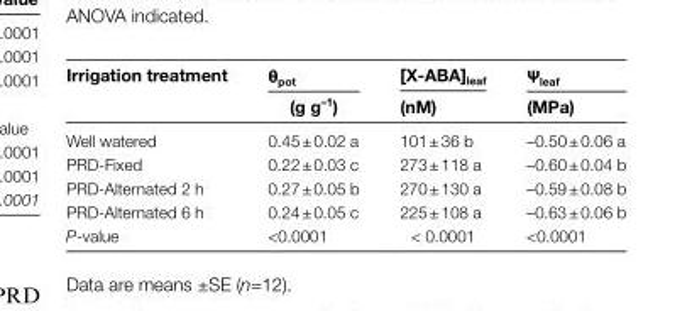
<table><thead><tr><td rowspan="2">Irrigation treatment</td><td rowspan="2">θ<sub>pot</sub> (g g<sup>–1</sup>)</td><td rowspan="2">[X-ABA]<sub>leaf</sub> (nM)</td><td rowspan="2">Ψ<sub>leaf</sub> (MPa)</td></tr><tr></tr></thead><tbody><tr><td>Well watered</td><td>0.45 ± 0.02 a</td><td>101 ± 36 b</td><td>–0.50 ± 0.06 a</td></tr><tr><td>PRD-Fixed</td><td>0.22 ± 0.03 c</td><td>273 ± 118 a</td><td>–0.60 ± 0.04 b</td></tr><tr><td>PRD-Alternated 2 h</td><td>0.27 ± 0.05 b</td><td>270 ± 130 a</td><td>–0.59 ± 0.08 b</td></tr><tr><td>PRD-Alternated 6 h</td><td>0.24 ± 0.05 c</td><td>225 ± 108 a</td><td>–0.63 ± 0.06 b</td></tr><tr><td>P-value</td><td>&lt;0.0001</td><td>&lt; 0.0001</td><td>&lt;0.0001</td></tr></tbody></table>